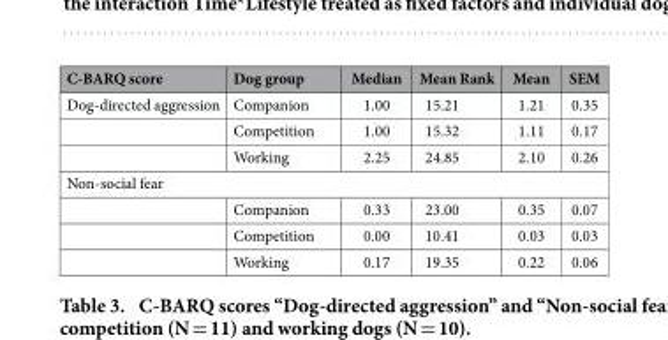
<table><thead><tr><td>C-BARQ score</td><td>Dog group</td><td>Median</td><td>Mean Rank</td><td>Mean</td><td>SEM</td></tr></thead><tbody><tr><td rowspan="3">Dog-directed aggression</td><td>Companion</td><td>1.00</td><td>15.21</td><td>1.21</td><td>0.35</td></tr><tr><td>Competition</td><td>1.00</td><td>15.32</td><td>1.11</td><td>0.17</td></tr><tr><td>Working</td><td>2.25</td><td>24.85</td><td>2.10</td><td>0.26</td></tr><tr><td colspan="6">Non-social fear</td></tr><tr><td></td><td>Companion</td><td>0.33</td><td>23.00</td><td>0.35</td><td>0.07</td></tr><tr><td></td><td>Competition</td><td>0.00</td><td>10.41</td><td>0.03</td><td>0.03</td></tr><tr><td></td><td>Working</td><td>0.17</td><td>19.35</td><td>0.22</td><td>0.06</td></tr></tbody></table>